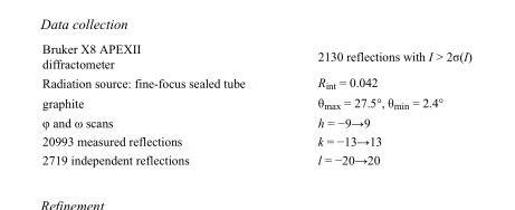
<table><tbody><tr><td>Bruker X8 APEXII diffractometer</td><td>2130 reflections with I &gt; 2σ(I)</td></tr><tr><td>Radiation source: fine-focus sealed tube</td><td>R<sub>int</sub> = 0.042</td></tr><tr><td>graphite</td><td>θ<sub>max</sub> = 27.5°, θ<sub>min</sub> = 2.4°</td></tr><tr><td>φ and ω scans</td><td>h = −9→9</td></tr><tr><td>20993 measured reflections</td><td>k = −13→13</td></tr><tr><td>2719 independent reflections</td><td>l = −20→20</td></tr></tbody></table>